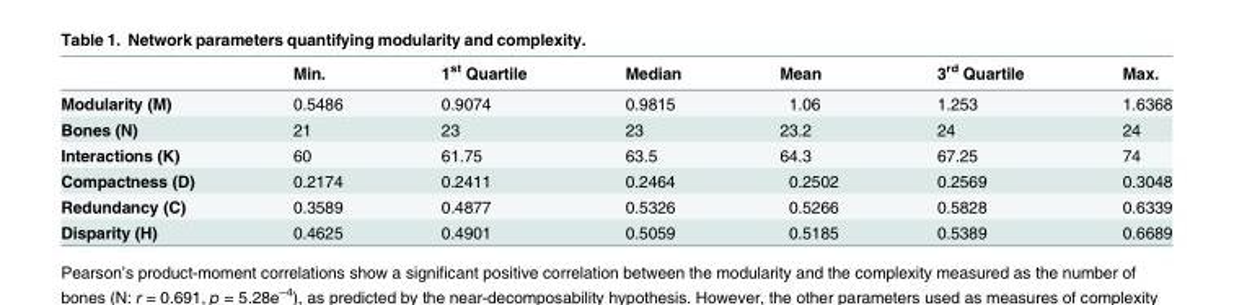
<table><thead><tr><td></td><td>Min.</td><td>1<sup>st</sup> Quartile</td><td>Median</td><td>Mean</td><td>3<sup>rd</sup> Quartile</td><td>Max.</td></tr></thead><tbody><tr><td>Modularity (M)</td><td>0.5486</td><td>0.9074</td><td>0.9815</td><td>1.06</td><td>1.253</td><td>1.6368</td></tr><tr><td>Bones (N)</td><td>21</td><td>23</td><td>23</td><td>23.2</td><td>24</td><td>24</td></tr><tr><td>Interactions (K)</td><td>60</td><td>61.75</td><td>63.5</td><td>64.3</td><td>67.25</td><td>74</td></tr><tr><td>Compactness (D)</td><td>0.2174</td><td>0.2411</td><td>0.2464</td><td>0.2502</td><td>0.2569</td><td>0.3048</td></tr><tr><td>Redundancy (C)</td><td>0.3589</td><td>0.4877</td><td>0.5326</td><td>0.5266</td><td>0.5828</td><td>0.6339</td></tr><tr><td>Disparity (H)</td><td>0.4625</td><td>0.4901</td><td>0.5059</td><td>0.5185</td><td>0.5389</td><td>0.6689</td></tr></tbody></table>